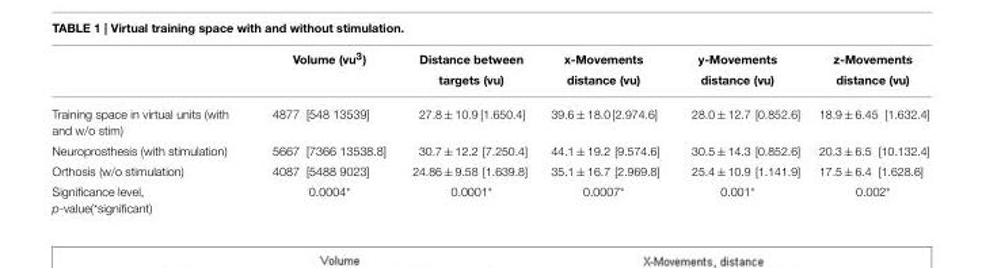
<table><thead><tr><td></td><td>Volume (vu<sup>3</sup>)</td><td>Distance between targets (vu)</td><td>x-Movements distance (vu)</td><td>y-Movements distance (vu)</td><td>z-Movements distance (vu)</td></tr></thead><tbody><tr><td>Training space in virtual units (with and w/o stim)</td><td>4877 [548 13539]</td><td>27.8 ± 10.9 [1.650.4]</td><td>39.6 ± 18.0 [2.974.6]</td><td>28.0 ± 12.7 [0.852.6]</td><td>18.9 ± 6.45 [1.632.4]</td></tr><tr><td>Neuroprosthesis (with stimulation)</td><td>5667 [7366 13538.8]</td><td>30.7 ± 12.2 [7.250.4]</td><td>44.1 ± 19.2 [9.574.6]</td><td>30.5 ± 14.3 [0.852.6]</td><td>20.3 ± 6.5 [10.132.4]</td></tr><tr><td>Orthosis (w/o stimulation)</td><td>4087 [5488 9023]</td><td>24.86 ± 9.58 [1.639.8]</td><td>35.1 ± 16.7 [2.969.8]</td><td>25.4 ± 10.9 [1.141.9]</td><td>17.5 ± 6.4 [1.628.6]</td></tr><tr><td>Significance level, p-value(*significant)</td><td>0.0004*</td><td>0.0001*</td><td>0.0007*</td><td>0.001*</td><td>0.002*</td></tr></tbody></table>